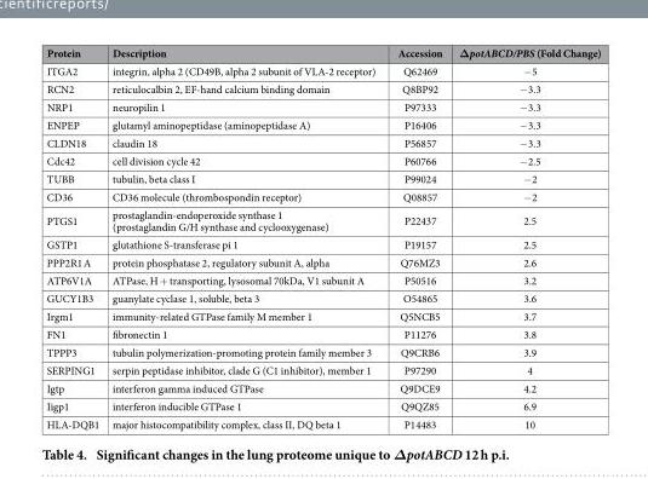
<table><thead><tr><td>Protein</td><td>Description</td><td>Accession</td><td>ΔpotABCD/PBS (Fold Change)</td></tr></thead><tbody><tr><td>ITGA2</td><td>integrin, alpha 2 (CD49B, alpha 2 subunit of VLA-2 receptor)</td><td>Q62469</td><td>− 5</td></tr><tr><td>RCN2</td><td>reticulocalbin 2, EF-hand calcium binding domain</td><td>Q8BP92</td><td>− 3.3</td></tr><tr><td>NRP1</td><td>neuropilin 1</td><td>P97333</td><td>− 3.3</td></tr><tr><td>ENPEP</td><td>glutamyl aminopeptidase (aminopeptidase A)</td><td>P16406</td><td>− 3.3</td></tr><tr><td>CLDN18</td><td>claudin 18</td><td>P56857</td><td>− 3.3</td></tr><tr><td>Cdc42</td><td>cell division cycle 42</td><td>P60766</td><td>− 2.5</td></tr><tr><td>TUBB</td><td>tubulin, beta class I</td><td>P99024</td><td>− 2</td></tr><tr><td>CD36</td><td>CD36 molecule (thrombospondin receptor)</td><td>Q08857</td><td>− 2</td></tr><tr><td>PTGS1</td><td>prostaglandin-endoperoxide synthase 1 (prostaglandin G/H synthase and cyclooxygenase)</td><td>P22437</td><td>2.5</td></tr><tr><td>GSTP1</td><td>glutathione S-transferase pi 1</td><td>P19157</td><td>2.5</td></tr><tr><td>PPP2R1 A</td><td>protein phosphatase 2, regulatory subunit A, alpha</td><td>Q76MZ3</td><td>2.6</td></tr><tr><td>ATP6V1A</td><td>ATPase, H + transporting, lysosomal 70kDa, V1 subunit A</td><td>P50516</td><td>3.2</td></tr><tr><td>GUCY1B3</td><td>guanylate cyclase 1, soluble, beta 3</td><td>O54865</td><td>3.6</td></tr><tr><td>Irgm1</td><td>immunity-related GTPase family M member 1</td><td>Q5NCB5</td><td>3.7</td></tr><tr><td>FN1</td><td>fibronectin 1</td><td>P11276</td><td>3.8</td></tr><tr><td>TPPP3</td><td>tubulin polymerization-promoting protein family member 3</td><td>Q9CRB6</td><td>3.9</td></tr><tr><td>SERPING1</td><td>serpin peptidase inhibitor, clade G (C1 inhibitor), member 1</td><td>P97290</td><td>4</td></tr><tr><td>Igtp</td><td>interferon gamma induced GTPase</td><td>Q9DCE9</td><td>4.2</td></tr><tr><td>Iigp1</td><td>interferon inducible GTPase 1</td><td>Q9QZ85</td><td>6.9</td></tr><tr><td>HLA-DQB1</td><td>major histocompatibility complex, class II, DQ beta 1</td><td>P14483</td><td>10</td></tr></tbody></table>